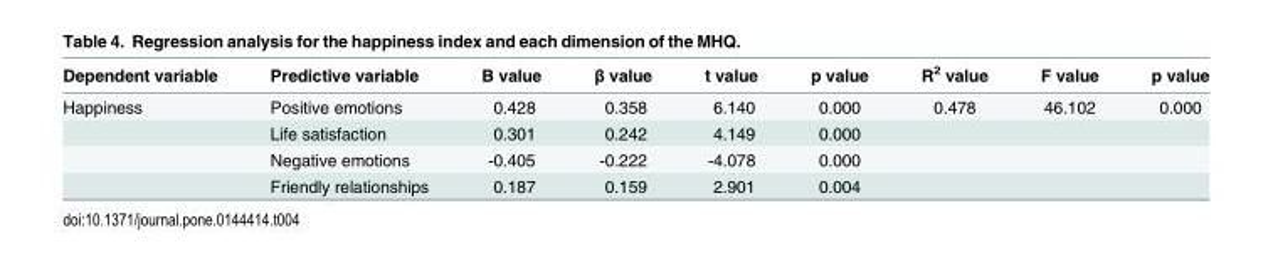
<table><thead><tr><td>Dependent variable</td><td>Predictive variable</td><td>B value</td><td>β value</td><td>t value</td><td>p value</td><td>R<sup>2</sup> value</td><td>F value</td><td>p value</td></tr></thead><tbody><tr><td rowspan="4">Happiness</td><td>Positive emotions</td><td>0.428</td><td>0.358</td><td>6.140</td><td>0.000</td><td>0.478</td><td>46.102</td><td>0.000</td></tr><tr><td>Life satisfaction</td><td>0.301</td><td>0.242</td><td>4.149</td><td>0.000</td><td></td><td></td><td></td></tr><tr><td>Negative emotions</td><td>-0.405</td><td>-0.222</td><td>-4.078</td><td>0.000</td><td></td><td></td><td></td></tr><tr><td>Friendly relationships</td><td>0.187</td><td>0.159</td><td>2.901</td><td>0.004</td><td></td><td></td><td></td></tr></tbody></table>